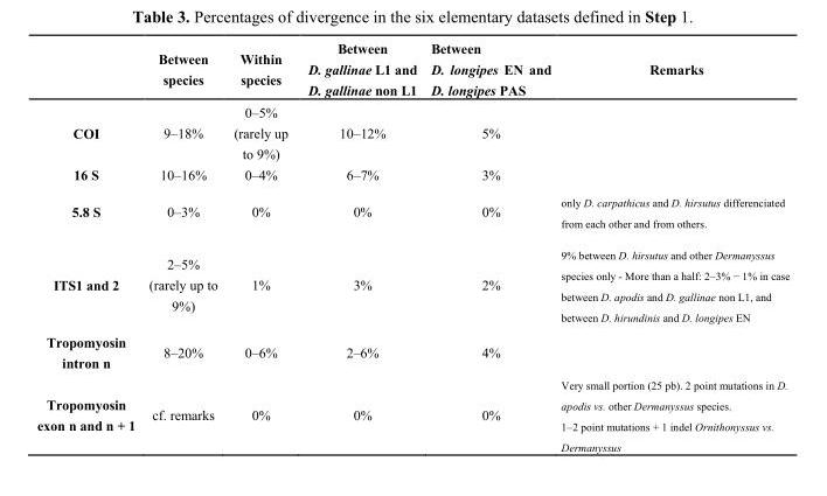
<table><thead><tr><td></td><td>Between species</td><td>Within species</td><td>Between D. gallinae L1 and D. gallinae non L1</td><td>Between D. longipes EN and D. longipes PAS</td><td>Remarks</td></tr></thead><tbody><tr><td>COI</td><td>9–18%</td><td>0–5% (rarely up to 9%)</td><td>10–12%</td><td>5%</td><td></td></tr><tr><td>16 S</td><td>10–16%</td><td>0–4%</td><td>6–7%</td><td>3%</td><td></td></tr><tr><td>5.8 S</td><td>0–3%</td><td>0%</td><td>0%</td><td>0%</td><td>only D. carpathicus and D. hirsutus differenciated from each other and from others.</td></tr><tr><td>ITS1 and 2</td><td>2–5% (rarely up to 9%)</td><td>1%</td><td>3%</td><td>2%</td><td>9% between D. hirsutus and other Dermanyssus species only - More than a half: 2–3% − 1% in case between D. apodis and D. gallinae non L1, and between D. hirundinis and D. longipes EN</td></tr><tr><td>Tropomyosin intron n</td><td>8–20%</td><td>0–6%</td><td>2–6%</td><td>4%</td><td></td></tr><tr><td>Tropomyosin exon n and n + 1</td><td>cf. remarks</td><td>0%</td><td>0%</td><td>0%</td><td>Very small portion (25 pb). 2 point mutations in D. apodis vs. other Dermanyssus species. 1–2 point mutations + 1 indel Ornithonyssus vs. Dermanyssus</td></tr></tbody></table>